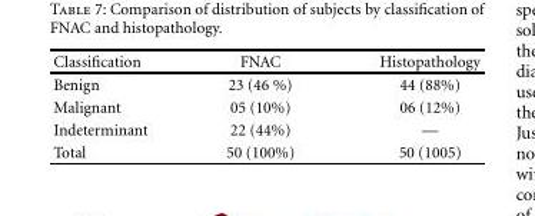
<table><thead><tr><td>Classification</td><td>FNAC</td><td>Histopathology</td></tr></thead><tbody><tr><td>Benign</td><td>23 (46 %)</td><td>44 (88%)</td></tr><tr><td>Malignant</td><td>05 (10%)</td><td>06 (12%)</td></tr><tr><td>Indeterminant</td><td>22 (44%)</td><td>—</td></tr><tr><td>Total</td><td>50 (100%)</td><td>50 (1005)</td></tr></tbody></table>